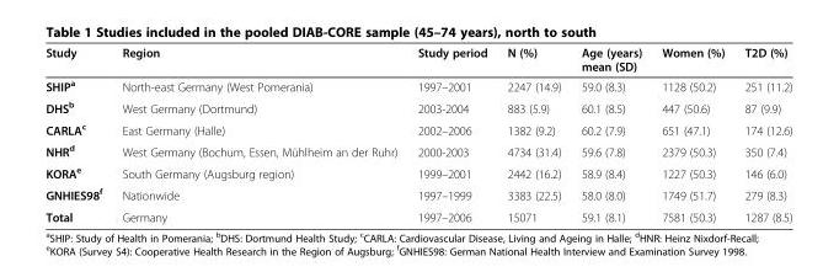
<table><thead><tr><td>Study</td><td>Region</td><td>Study period</td><td>N (%)</td><td>Age (years) mean (SD)</td><td>Women (%)</td><td>T2D (%)</td></tr></thead><tbody><tr><td>SHIP<sup>a</sup></td><td>North-east Germany (West Pomerania)</td><td>1997–2001</td><td>2247 (14.9)</td><td>59.0 (8.3)</td><td>1128 (50.2)</td><td>251 (11.2)</td></tr><tr><td>DHS<sup>b</sup></td><td>West Germany (Dortmund)</td><td>2003-2004</td><td>883 (5.9)</td><td>60.1 (8.5)</td><td>447 (50.6)</td><td>87 (9.9)</td></tr><tr><td>CARLA<sup>c</sup></td><td>East Germany (Halle)</td><td>2002–2006</td><td>1382 (9.2)</td><td>60.2 (7.9)</td><td>651 (47.1)</td><td>174 (12.6)</td></tr><tr><td>NHR<sup>d</sup></td><td>West Germany (Bochum, Essen, Mühlheim an der Ruhr)</td><td>2000-2003</td><td>4734 (31.4)</td><td>59.6 (7.8)</td><td>2379 (50.3)</td><td>350 (7.4)</td></tr><tr><td>KORA<sup>e</sup></td><td>South Germany (Augsburg region)</td><td>1999–2001</td><td>2442 (16.2)</td><td>58.9 (8.4)</td><td>1227 (50.3)</td><td>146 (6.0)</td></tr><tr><td>GNHIES98<sup>f</sup></td><td>Nationwide</td><td>1997–1999</td><td>3383 (22.5)</td><td>58.0 (8.0)</td><td>1749 (51.7)</td><td>279 (8.3)</td></tr><tr><td>Total</td><td>Germany</td><td>1997–2006</td><td>15071</td><td>59.1 (8.1)</td><td>7581 (50.3)</td><td>1287 (8.5)</td></tr></tbody></table>